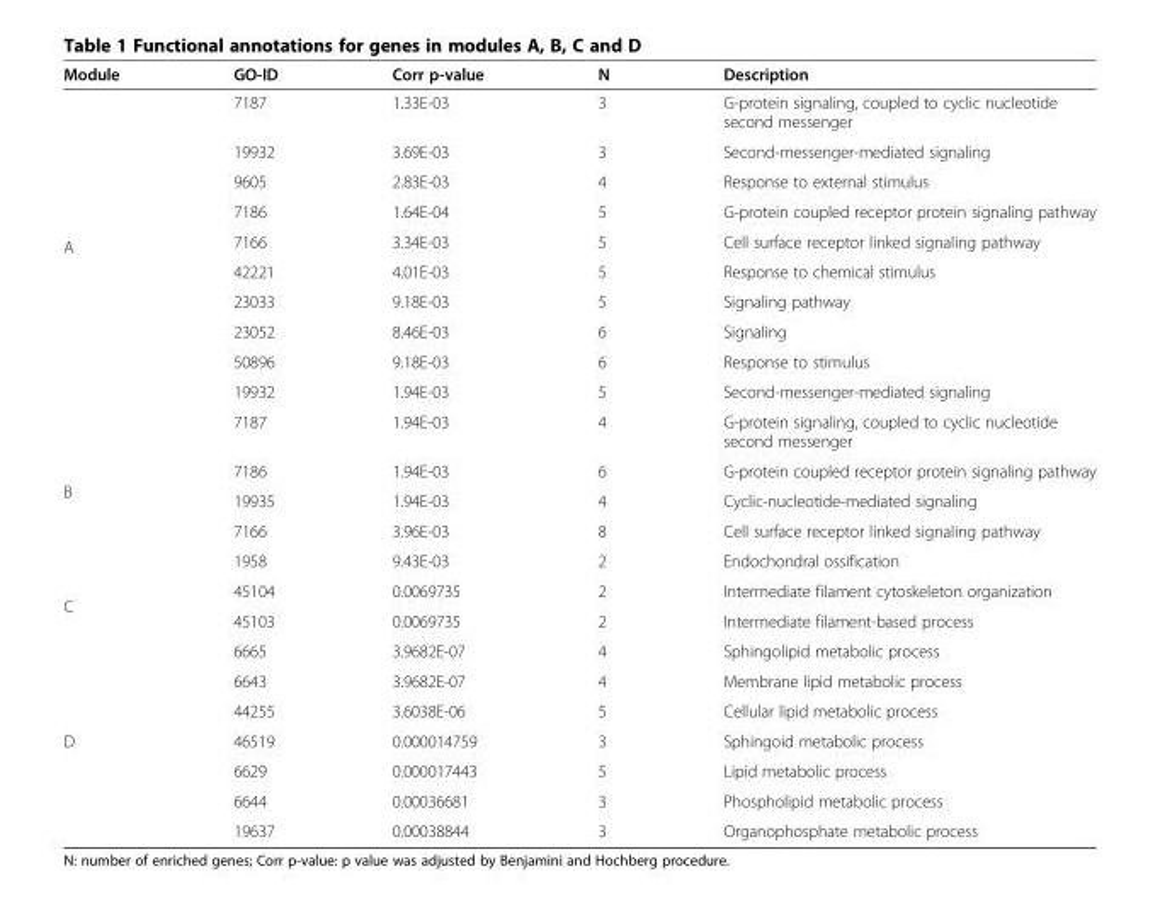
<table><thead><tr><td>Module</td><td>GO-ID</td><td>Corr p-value</td><td>N</td><td>Description</td></tr></thead><tbody><tr><td rowspan="10">A</td><td>7187</td><td>1.33E-03</td><td>3</td><td>G-protein signaling, coupled to cyclic nucleotide second messenger</td></tr><tr><td>19932</td><td>3.69E-03</td><td>3</td><td>Second-messenger-mediated signaling</td></tr><tr><td>9605</td><td>2.83E-03</td><td>4</td><td>Response to external stimulus</td></tr><tr><td>7186</td><td>1.64E-04</td><td>5</td><td>G-protein coupled receptor protein signaling pathway</td></tr><tr><td>7166</td><td>3.34E-03</td><td>5</td><td>Cell surface receptor linked signaling pathway</td></tr><tr><td>42221</td><td>4.01E-03</td><td>5</td><td>Response to chemical stimulus</td></tr><tr><td>23033</td><td>9.18E-03</td><td>5</td><td>Signaling pathway</td></tr><tr><td>23052</td><td>8.46E-03</td><td>6</td><td>Signaling</td></tr><tr><td>50896</td><td>9.18E-03</td><td>6</td><td>Response to stimulus</td></tr><tr><td>19932</td><td>1.94E-03</td><td>5</td><td>Second-messenger-mediated signaling</td></tr><tr><td rowspan="5">B</td><td>7187</td><td>1.94E-03</td><td>4</td><td>G-protein signaling, coupled to cyclic nucleotide second messenger</td></tr><tr><td>7186</td><td>1.94E-03</td><td>6</td><td>G-protein coupled receptor protein signaling pathway</td></tr><tr><td>19935</td><td>1.94E-03</td><td>4</td><td>Cyclic-nucleotide-mediated signaling</td></tr><tr><td>7166</td><td>3.96E-03</td><td>8</td><td>Cell surface receptor linked signaling pathway</td></tr><tr><td>1958</td><td>9.43E-03</td><td>2</td><td>Endochondral ossification</td></tr><tr><td rowspan="2">C</td><td>45104</td><td>0.0069735</td><td>2</td><td>Intermediate filament cytoskeleton organization</td></tr><tr><td>45103</td><td>0.0069735</td><td>2</td><td>Intermediate filament-based process</td></tr><tr><td rowspan="7">D</td><td>6665</td><td>3.9682E-07</td><td>4</td><td>Sphingolipid metabolic process</td></tr><tr><td>6643</td><td>3.9682E-07</td><td>4</td><td>Membrane lipid metabolic process</td></tr><tr><td>44255</td><td>3.6038E-06</td><td>5</td><td>Cellular lipid metabolic process</td></tr><tr><td>46519</td><td>0.000014759</td><td>3</td><td>Sphingoid metabolic process</td></tr><tr><td>6629</td><td>0.000017443</td><td>5</td><td>Lipid metabolic process</td></tr><tr><td>6644</td><td>0.00036681</td><td>3</td><td>Phospholipid metabolic process</td></tr><tr><td>19637</td><td>0.00038844</td><td>3</td><td>Organophosphate metabolic process</td></tr></tbody></table>